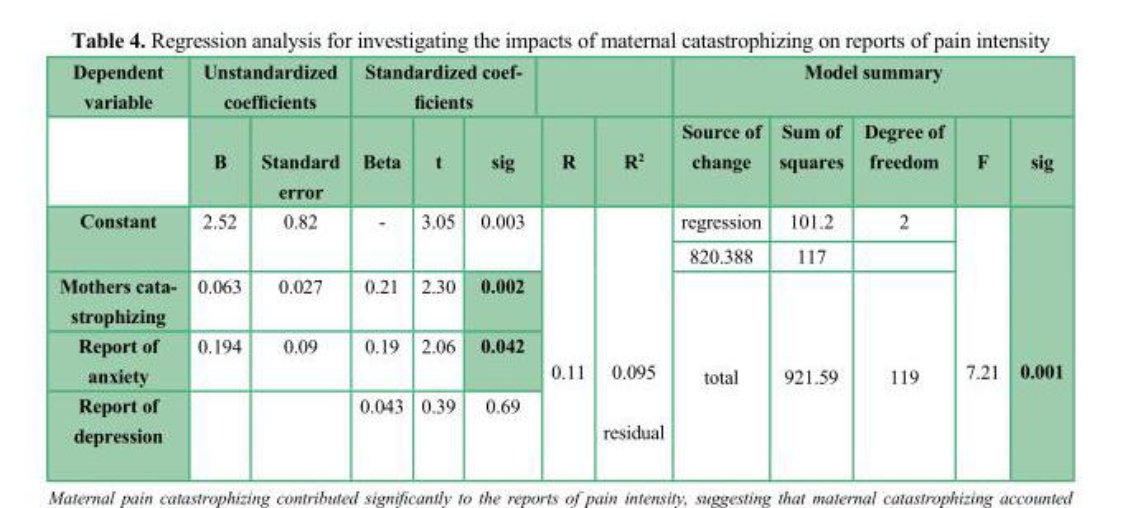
<table><thead><tr><td rowspan="2">Dependent variable</td><td colspan="2">Unstandardized coefficients</td><td colspan="5">Standardized coef- ficients</td><td colspan="5">Model summary</td></tr><tr><td>B</td><td>Standard error</td><td>Beta</td><td>t</td><td>sig</td><td>R</td><td>R<sup>2</sup></td><td>Source of change</td><td>Sum of squares</td><td>Degree of freedom</td><td>F</td><td>sig</td></tr></thead><tbody><tr><td rowspan="2">Constant</td><td rowspan="2">2.52</td><td rowspan="2">0.82</td><td rowspan="2">-</td><td rowspan="2">3.05</td><td rowspan="2">0.003</td><td rowspan="5">0.11</td><td rowspan="5">0.095 residual</td><td>regression</td><td>101.2</td><td>2</td><td rowspan="5">7.21</td><td rowspan="5">0.001</td></tr><tr><td>820.388</td><td>117</td><td></td></tr><tr><td>Mothers cata- strophizing</td><td>0.063</td><td>0.027</td><td>0.21</td><td>2.30</td><td>0.002</td><td rowspan="3">total</td><td rowspan="3">921.59</td><td rowspan="3">119</td></tr><tr><td>Report of anxiety</td><td>0.194</td><td>0.09</td><td>0.19</td><td>2.06</td><td>0.042</td></tr><tr><td>Report of depression</td><td></td><td></td><td>0.043</td><td>0.39</td><td>0.69</td></tr></tbody></table>